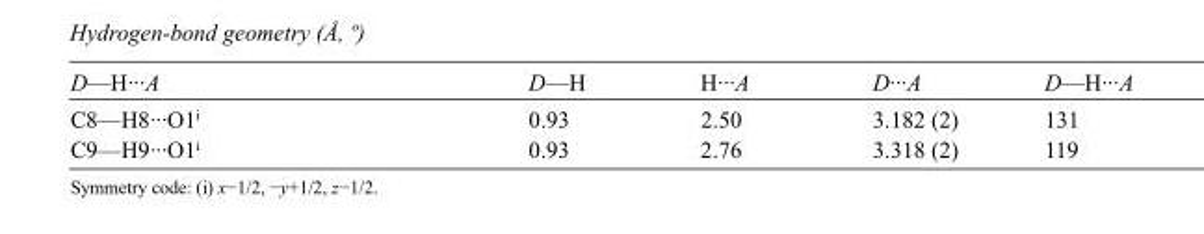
<table><tbody><tr><td>D—H···A</td><td>D—H</td><td>H···A</td><td>D···A</td><td>D—H···A</td></tr><tr><td>C8—H8···O1<sup>i</sup></td><td>0.93</td><td>2.50</td><td>3.182 (2)</td><td>131</td></tr><tr><td>C9—H9···O1<sup>i</sup></td><td>0.93</td><td>2.76</td><td>3.318 (2)</td><td>119</td></tr></tbody></table>